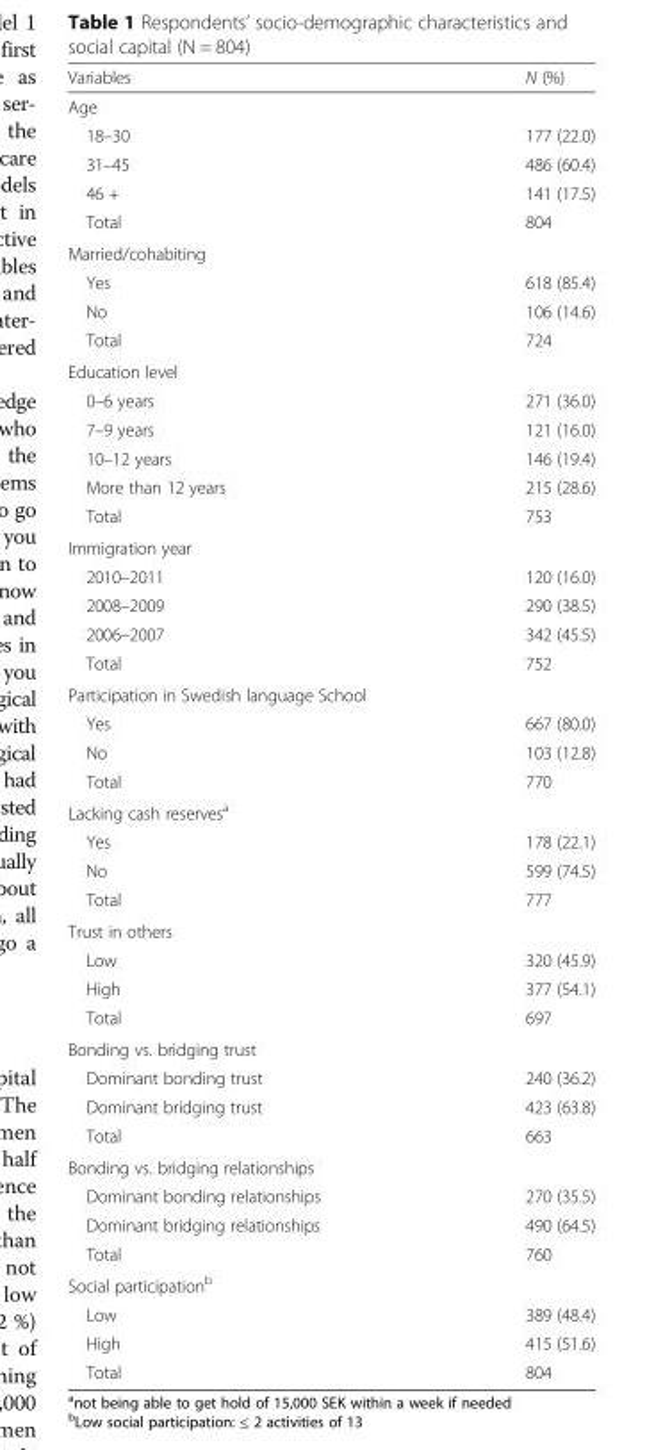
<table><thead><tr><td>Variables</td><td>N (%)</td></tr></thead><tbody><tr><td colspan="2">Age</td></tr><tr><td>18–30</td><td>177 (22.0)</td></tr><tr><td>31–45</td><td>486 (60.4)</td></tr><tr><td>46 +</td><td>141 (17.5)</td></tr><tr><td>Total</td><td>804</td></tr><tr><td colspan="2">Married/cohabiting</td></tr><tr><td>Yes</td><td>618 (85.4)</td></tr><tr><td>No</td><td>106 (14.6)</td></tr><tr><td>Total</td><td>724</td></tr><tr><td colspan="2">Education level</td></tr><tr><td>0–6 years</td><td>271 (36.0)</td></tr><tr><td>7–9 years</td><td>121 (16.0)</td></tr><tr><td>10–12 years</td><td>146 (19.4)</td></tr><tr><td>More than 12 years</td><td>215 (28.6)</td></tr><tr><td>Total</td><td>753</td></tr><tr><td colspan="2">Immigration year</td></tr><tr><td>2010–2011</td><td>120 (16.0)</td></tr><tr><td>2008–2009</td><td>290 (38.5)</td></tr><tr><td>2006–2007</td><td>342 (45.5)</td></tr><tr><td>Total</td><td>752</td></tr><tr><td colspan="2">Participation in Swedish language School</td></tr><tr><td>Yes</td><td>667 (80.0)</td></tr><tr><td>No</td><td>103 (12.8)</td></tr><tr><td>Total</td><td>770</td></tr><tr><td colspan="2">Lacking cash reserves<sup>a</sup></td></tr><tr><td>Yes</td><td>178 (22.1)</td></tr><tr><td>No</td><td>599 (74.5)</td></tr><tr><td>Total</td><td>777</td></tr><tr><td colspan="2">Trust in others</td></tr><tr><td>Low</td><td>320 (45.9)</td></tr><tr><td>High</td><td>377 (54.1)</td></tr><tr><td>Total</td><td>697</td></tr><tr><td colspan="2">Bonding vs. bridging trust</td></tr><tr><td>Dominant bonding trust</td><td>240 (36.2)</td></tr><tr><td>Dominant bridging trust</td><td>423 (63.8)</td></tr><tr><td>Total</td><td>663</td></tr><tr><td colspan="2">Bonding vs. bridging relationships</td></tr><tr><td>Dominant bonding relationships</td><td>270 (35.5)</td></tr><tr><td>Dominant bridging relationships</td><td>490 (64.5)</td></tr><tr><td>Total</td><td>760</td></tr><tr><td colspan="2">Social participation<sup>b</sup></td></tr><tr><td>Low</td><td>389 (48.4)</td></tr><tr><td>High</td><td>415 (51.6)</td></tr><tr><td>Total</td><td>804</td></tr></tbody></table>